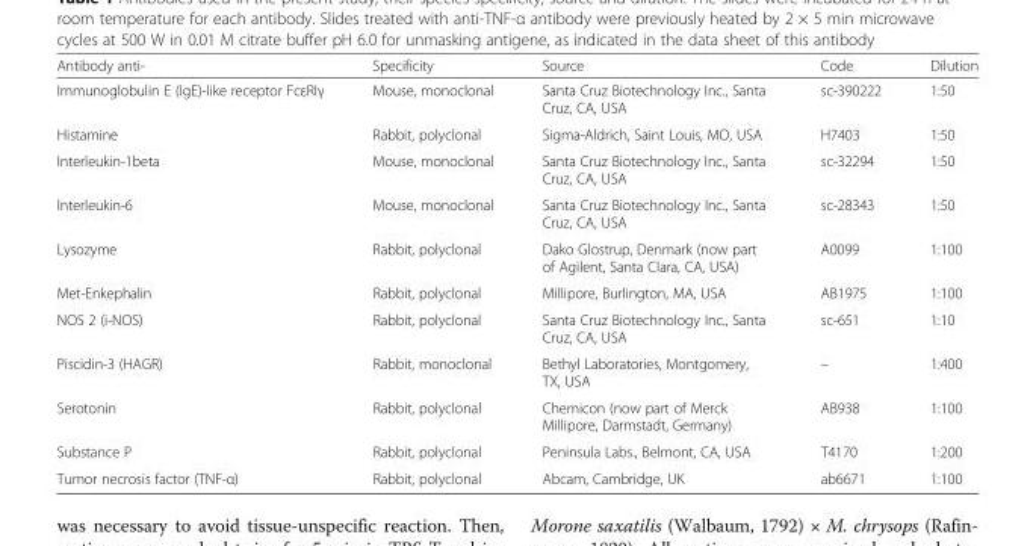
<table><thead><tr><td>Antibody anti-</td><td>Specificity</td><td>Source</td><td>Code</td><td>Dilution</td></tr></thead><tbody><tr><td>Immunoglobulin E (IgE)-like receptor FcεRIγ</td><td>Mouse, monoclonal</td><td>Santa Cruz Biotechnology Inc., Santa Cruz, CA, USA</td><td>sc-390222</td><td>1:50</td></tr><tr><td>Histamine</td><td>Rabbit, polyclonal</td><td>Sigma-Aldrich, Saint Louis, MO, USA</td><td>H7403</td><td>1:50</td></tr><tr><td>Interleukin-1beta</td><td>Mouse, monoclonal</td><td>Santa Cruz Biotechnology Inc., Santa Cruz, CA, USA</td><td>sc-32294</td><td>1:50</td></tr><tr><td>Interleukin-6</td><td>Mouse, monoclonal</td><td>Santa Cruz Biotechnology Inc., Santa Cruz, CA, USA</td><td>sc-28343</td><td>1:50</td></tr><tr><td>Lysozyme</td><td>Rabbit, polyclonal</td><td>Dako Glostrup, Denmark (now part of Agilent, Santa Clara, CA, USA)</td><td>A0099</td><td>1:100</td></tr><tr><td>Met-Enkephalin</td><td>Rabbit, polyclonal</td><td>Millipore, Burlington, MA, USA</td><td>AB1975</td><td>1:100</td></tr><tr><td>NOS 2 (i-NOS)</td><td>Rabbit, polyclonal</td><td>Santa Cruz Biotechnology Inc., Santa Cruz, CA, USA</td><td>sc-651</td><td>1:10</td></tr><tr><td>Piscidin-3 (HAGR)</td><td>Rabbit, monoclonal</td><td>Bethyl Laboratories, Montgomery, TX, USA</td><td>–</td><td>1:400</td></tr><tr><td>Serotonin</td><td>Rabbit, polyclonal</td><td>Chemicon (now part of Merck Millipore, Darmstadt, Germany)</td><td>AB938</td><td>1:100</td></tr><tr><td>Substance P</td><td>Rabbit, polyclonal</td><td>Peninsula Labs., Belmont, CA, USA</td><td>T4170</td><td>1:200</td></tr><tr><td>Tumor necrosis factor (TNF-α)</td><td>Rabbit, polyclonal</td><td>Abcam, Cambridge, UK</td><td>ab6671</td><td>1:100</td></tr></tbody></table>